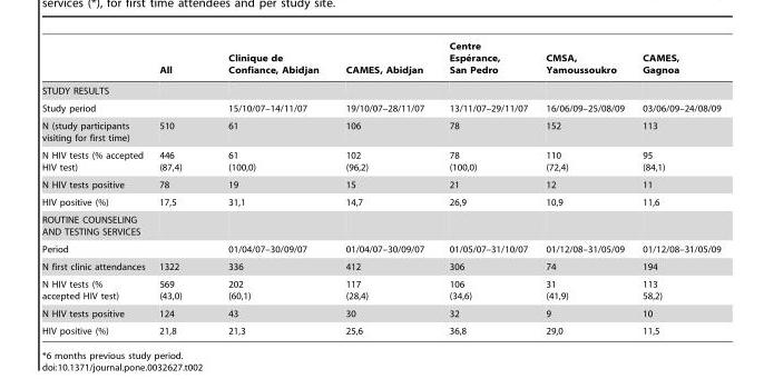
<table><thead><tr><td></td><td>All</td><td>Clinique de Confiance, Abidjan</td><td>CAMES, Abidjan</td><td>Centre Espe´rance, San Pedro</td><td>CMSA, Yamoussoukro</td><td>CAMES, Gagnoa</td></tr></thead><tbody><tr><td colspan="7">STUDY RESULTS</td></tr><tr><td>Study period</td><td></td><td>15/10/07–14/11/07</td><td>19/10/07–28/11/07</td><td>13/11/07–29/11/07</td><td>16/06/09–25/08/09</td><td>03/06/09–24/08/09</td></tr><tr><td>N (study participants visiting for first time)</td><td>510</td><td>61</td><td>106</td><td>78</td><td>152</td><td>113</td></tr><tr><td>N HIV tests (% accepted HIV test)</td><td>446 (87,4)</td><td>61 (100,0)</td><td>102 (96,2)</td><td>78 (100,0)</td><td>110 (72,4)</td><td>95 (84,1)</td></tr><tr><td>N HIV tests positive</td><td>78</td><td>19</td><td>15</td><td>21</td><td>12</td><td>11</td></tr><tr><td>HIV positive (%)</td><td>17,5</td><td>31,1</td><td>14,7</td><td>26,9</td><td>10,9</td><td>11,6</td></tr><tr><td colspan="7">ROUTINE COUNSELING AND TESTING SERVICES</td></tr><tr><td>Period</td><td></td><td>01/04/07–30/09/07</td><td>01/04/07–30/09/07</td><td>01/05/07–31/10/07</td><td>01/12/08–31/05/09</td><td>01/12/08–31/05/09</td></tr><tr><td>N first clinic attendances</td><td>1322</td><td>336</td><td>412</td><td>306</td><td>74</td><td>194</td></tr><tr><td>N HIV tests (% accepted HIV test)</td><td>569 (43,0)</td><td>202 (60,1)</td><td>117 (28,4)</td><td>106 (34,6)</td><td>31 (41,9)</td><td>113 58,2)</td></tr><tr><td>N HIV tests positive</td><td>124</td><td>43</td><td>30</td><td>32</td><td>9</td><td>10</td></tr><tr><td>HIV positive (%)</td><td>21,8</td><td>21,3</td><td>25,6</td><td>36,8</td><td>29,0</td><td>11,5</td></tr></tbody></table>